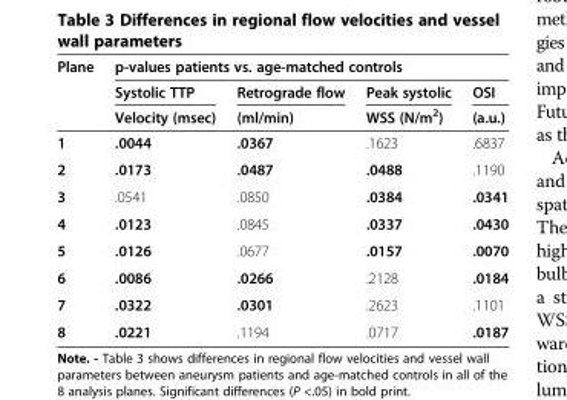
<table><thead><tr><td rowspan="3">Plane</td><td colspan="4">p-values patients vs. age-matched controls</td></tr><tr><td rowspan="2">Systolic TTP Velocity (msec)</td><td rowspan="2">Retrograde flow (ml/min)</td><td rowspan="2">Peak systolic WSS (N/m<sup>2</sup>)</td><td rowspan="2">OSI (a.u.)</td></tr><tr></tr></thead><tbody><tr><td>1</td><td>.0044</td><td>.0367</td><td>.1623</td><td>.6837</td></tr><tr><td>2</td><td>.0173</td><td>.0487</td><td>.0488</td><td>.1190</td></tr><tr><td>3</td><td>.0541</td><td>.0850</td><td>.0384</td><td>.0341</td></tr><tr><td>4</td><td>.0123</td><td>.0845</td><td>.0337</td><td>.0430</td></tr><tr><td>5</td><td>.0126</td><td>.0677</td><td>.0157</td><td>.0070</td></tr><tr><td>6</td><td>.0086</td><td>.0266</td><td>.2128</td><td>.0184</td></tr><tr><td>7</td><td>.0322</td><td>.0301</td><td>.2623</td><td>.1101</td></tr><tr><td>8</td><td>.0221</td><td>.1194</td><td>.0717</td><td>.0187</td></tr></tbody></table>